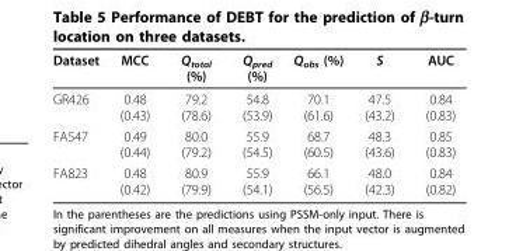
<table><thead><tr><td>Dataset</td><td>MCC</td><td>Q<sub>total</sub> (%)</td><td>Q<sub>pred</sub> (%)</td><td>Q<sub>obs</sub> (%)</td><td>S</td><td>AUC</td></tr></thead><tbody><tr><td>GR426</td><td>0.48 (0.43)</td><td>79.2 (78.6)</td><td>54.8 (53.9)</td><td>70.1 (61.6)</td><td>47.5 (43.2)</td><td>0.84 (0.83)</td></tr><tr><td>FA547</td><td>0.49 (0.44)</td><td>80.0 (79.2)</td><td>55.9 (54.5)</td><td>68.7 (60.5)</td><td>48.3 (43.6)</td><td>0.85 (0.83)</td></tr><tr><td>FA823</td><td>0.48 (0.42)</td><td>80.9 (79.9)</td><td>55.9 (54.1)</td><td>66.1 (56.5)</td><td>48.0 (42.3)</td><td>0.84 (0.82)</td></tr></tbody></table>